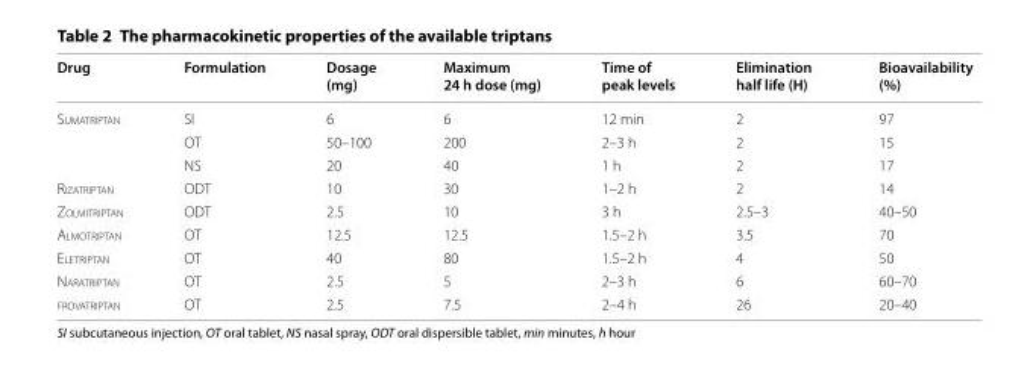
<table><thead><tr><td>Drug</td><td>Formulation</td><td>Dosage (mg)</td><td>Maximum 24 h dose (mg)</td><td>Time of peak levels</td><td>Elimination half life (H)</td><td>Bioavailability (%)</td></tr></thead><tbody><tr><td rowspan="3">Sumatriptan</td><td>SI</td><td>6</td><td>6</td><td>12 min</td><td>2</td><td>97</td></tr><tr><td>OT</td><td>50–100</td><td>200</td><td>2–3 h</td><td>2</td><td>15</td></tr><tr><td>NS</td><td>20</td><td>40</td><td>1 h</td><td>2</td><td>17</td></tr><tr><td>Rizatriptan</td><td>ODT</td><td>10</td><td>30</td><td>1–2 h</td><td>2</td><td>14</td></tr><tr><td>Zolmitriptan</td><td>ODT</td><td>2.5</td><td>10</td><td>3 h</td><td>2.5–3</td><td>40–50</td></tr><tr><td>Almotriptan</td><td>OT</td><td>12.5</td><td>12.5</td><td>1.5–2 h</td><td>3.5</td><td>70</td></tr><tr><td>Eletriptan</td><td>OT</td><td>40</td><td>80</td><td>1.5–2 h</td><td>4</td><td>50</td></tr><tr><td>Naratriptan</td><td>OT</td><td>2.5</td><td>5</td><td>2–3 h</td><td>6</td><td>60–70</td></tr><tr><td>frovatriptan</td><td>OT</td><td>2.5</td><td>7.5</td><td>2–4 h</td><td>26</td><td>20–40</td></tr></tbody></table>